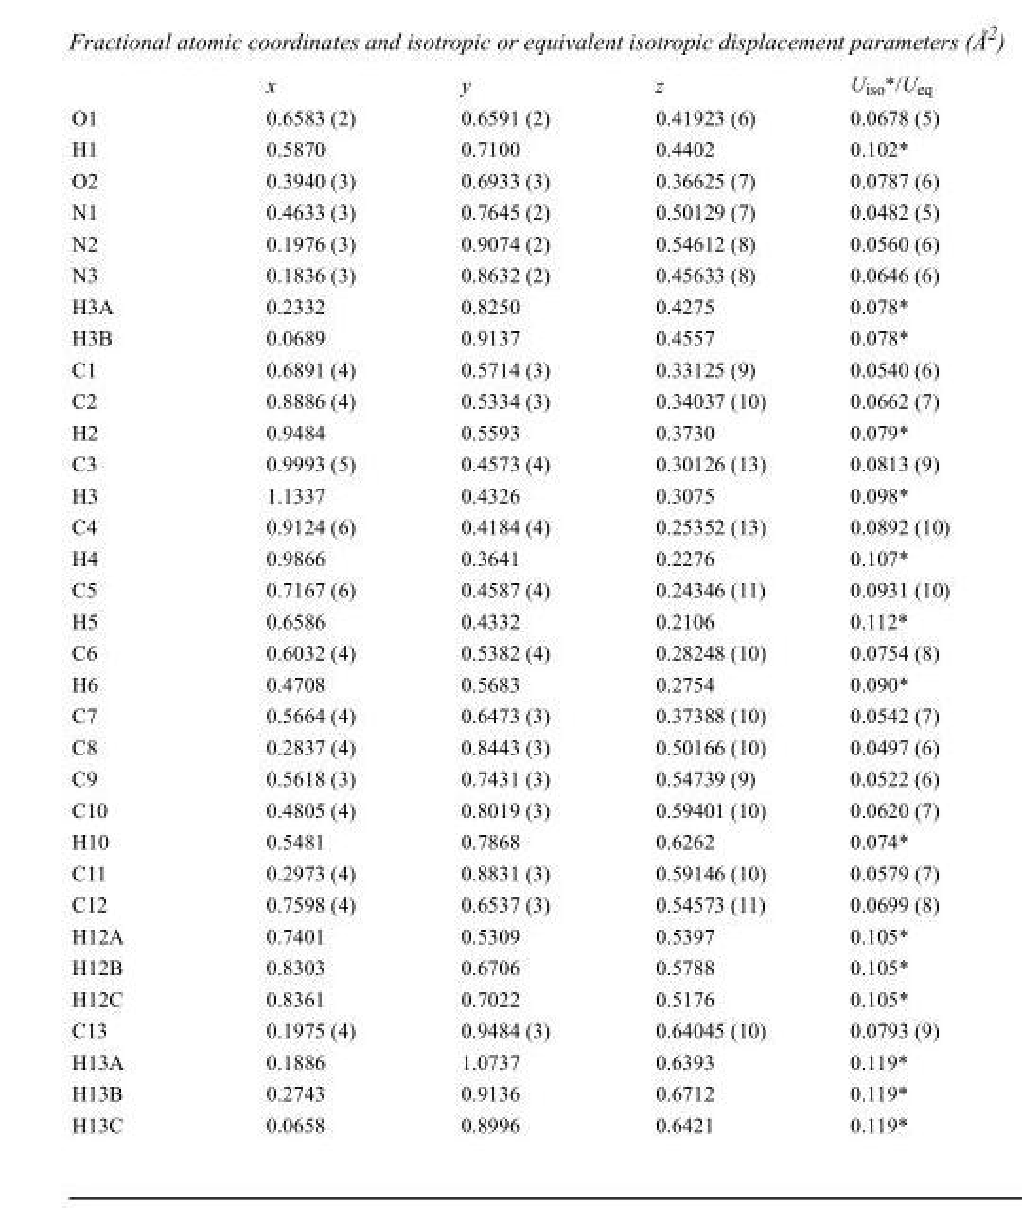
<table><thead><tr><td></td><td>x</td><td>y</td><td>z</td><td>U<sub>iso</sub>*/U<sub>eq</sub></td></tr></thead><tbody><tr><td>O1</td><td>0.6583 (2)</td><td>0.6591 (2)</td><td>0.41923 (6)</td><td>0.0678 (5)</td></tr><tr><td>H1</td><td>0.5870</td><td>0.7100</td><td>0.4402</td><td>0.102*</td></tr><tr><td>O2</td><td>0.3940 (3)</td><td>0.6933 (3)</td><td>0.36625 (7)</td><td>0.0787 (6)</td></tr><tr><td>N1</td><td>0.4633 (3)</td><td>0.7645 (2)</td><td>0.50129 (7)</td><td>0.0482 (5)</td></tr><tr><td>N2</td><td>0.1976 (3)</td><td>0.9074 (2)</td><td>0.54612 (8)</td><td>0.0560 (6)</td></tr><tr><td>N3</td><td>0.1836 (3)</td><td>0.8632 (2)</td><td>0.45633 (8)</td><td>0.0646 (6)</td></tr><tr><td>H3A</td><td>0.2332</td><td>0.8250</td><td>0.4275</td><td>0.078*</td></tr><tr><td>H3B</td><td>0.0689</td><td>0.9137</td><td>0.4557</td><td>0.078*</td></tr><tr><td>C1</td><td>0.6891 (4)</td><td>0.5714 (3)</td><td>0.33125 (9)</td><td>0.0540 (6)</td></tr><tr><td>C2</td><td>0.8886 (4)</td><td>0.5334 (3)</td><td>0.34037 (10)</td><td>0.0662 (7)</td></tr><tr><td>H2</td><td>0.9484</td><td>0.5593</td><td>0.3730</td><td>0.079*</td></tr><tr><td>C3</td><td>0.9993 (5)</td><td>0.4573 (4)</td><td>0.30126 (13)</td><td>0.0813 (9)</td></tr><tr><td>H3</td><td>1.1337</td><td>0.4326</td><td>0.3075</td><td>0.098*</td></tr><tr><td>C4</td><td>0.9124 (6)</td><td>0.4184 (4)</td><td>0.25352 (13)</td><td>0.0892 (10)</td></tr><tr><td>H4</td><td>0.9866</td><td>0.3641</td><td>0.2276</td><td>0.107*</td></tr><tr><td>C5</td><td>0.7167 (6)</td><td>0.4587 (4)</td><td>0.24346 (11)</td><td>0.0931 (10)</td></tr><tr><td>H5</td><td>0.6586</td><td>0.4332</td><td>0.2106</td><td>0.112*</td></tr><tr><td>C6</td><td>0.6032 (4)</td><td>0.5382 (4)</td><td>0.28248 (10)</td><td>0.0754 (8)</td></tr><tr><td>H6</td><td>0.4708</td><td>0.5683</td><td>0.2754</td><td>0.090*</td></tr><tr><td>C7</td><td>0.5664 (4)</td><td>0.6473 (3)</td><td>0.37388 (10)</td><td>0.0542 (7)</td></tr><tr><td>C8</td><td>0.2837 (4)</td><td>0.8443 (3)</td><td>0.50166 (10)</td><td>0.0497 (6)</td></tr><tr><td>C9</td><td>0.5618 (3)</td><td>0.7431 (3)</td><td>0.54739 (9)</td><td>0.0522 (6)</td></tr><tr><td>C10</td><td>0.4805 (4)</td><td>0.8019 (3)</td><td>0.59401 (10)</td><td>0.0620 (7)</td></tr><tr><td>H10</td><td>0.5481</td><td>0.7868</td><td>0.6262</td><td>0.074*</td></tr><tr><td>C11</td><td>0.2973 (4)</td><td>0.8831 (3)</td><td>0.59146 (10)</td><td>0.0579 (7)</td></tr><tr><td>C12</td><td>0.7598 (4)</td><td>0.6537 (3)</td><td>0.54573 (11)</td><td>0.0699 (8)</td></tr><tr><td>H12A</td><td>0.7401</td><td>0.5309</td><td>0.5397</td><td>0.105*</td></tr><tr><td>H12B</td><td>0.8303</td><td>0.6706</td><td>0.5788</td><td>0.105*</td></tr><tr><td>H12C</td><td>0.8361</td><td>0.7022</td><td>0.5176</td><td>0.105*</td></tr><tr><td>C13</td><td>0.1975 (4)</td><td>0.9484 (3)</td><td>0.64045 (10)</td><td>0.0793 (9)</td></tr><tr><td>H13A</td><td>0.1886</td><td>1.0737</td><td>0.6393</td><td>0.119*</td></tr><tr><td>H13B</td><td>0.2743</td><td>0.9136</td><td>0.6712</td><td>0.119*</td></tr><tr><td>H13C</td><td>0.0658</td><td>0.8996</td><td>0.6421</td><td>0.119*</td></tr></tbody></table>